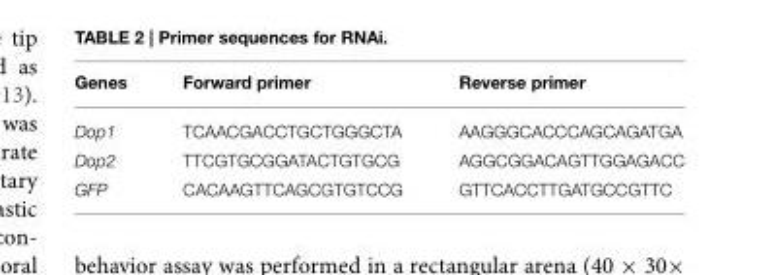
<table><thead><tr><td>Genes</td><td>Forward primer</td><td>Reverse primer</td></tr></thead><tbody><tr><td>Dop1</td><td>TCAACGACCTGCTGGGCTA</td><td>AAGGGCACCCAGCAGATGA</td></tr><tr><td>Dop2</td><td>TTCGTGCGGATACTGTGCG</td><td>AGGCGGACAGTTGGAGACC</td></tr><tr><td>GFP</td><td>CACAAGTTCAGCGTGTCCG</td><td>GTTCACCTTGATGCCGTTC</td></tr></tbody></table>